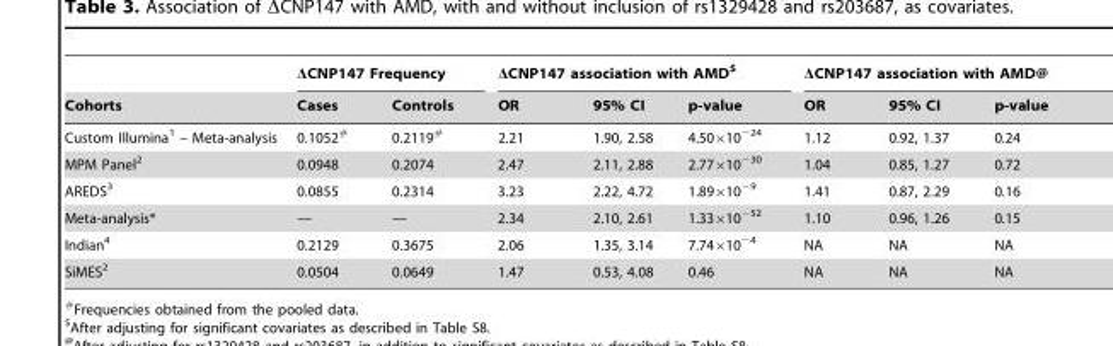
<table><thead><tr><td rowspan="2">Cohorts</td><td colspan="2">ΔCNP147 Frequency</td><td colspan="3">ΔCNP147 association with AMD$</td><td colspan="3">ΔCNP147 association with AMD@</td></tr><tr><td>Cases</td><td>Controls</td><td>OR</td><td>95% CI</td><td>p-value</td><td>OR</td><td>95% CI</td><td>p-value</td></tr></thead><tbody><tr><td>Custom Illumina<sup>1</sup> – Meta-analysis</td><td>0.1052#</td><td>0.2119#</td><td>2.21</td><td>1.90, 2.58</td><td>4.50×10<sup>−24</sup></td><td>1.12</td><td>0.92, 1.37</td><td>0.24</td></tr><tr><td>MPM Panel<sup>2</sup></td><td>0.0948</td><td>0.2074</td><td>2.47</td><td>2.11, 2.88</td><td>2.77×10<sup>−30</sup></td><td>1.04</td><td>0.85, 1.27</td><td>0.72</td></tr><tr><td>AREDS<sup>3</sup></td><td>0.0855</td><td>0.2314</td><td>3.23</td><td>2.22, 4.72</td><td>1.89×10<sup>−9</sup></td><td>1.41</td><td>0.87, 2.29</td><td>0.16</td></tr><tr><td>Meta-analysis*</td><td>—</td><td>—</td><td>2.34</td><td>2.10, 2.61</td><td>1.33×10<sup>−52</sup></td><td>1.10</td><td>0.96, 1.26</td><td>0.15</td></tr><tr><td>Indian<sup>4</sup></td><td>0.2129</td><td>0.3675</td><td>2.06</td><td>1.35, 3.14</td><td>7.74×10<sup>−4</sup></td><td>NA</td><td>NA</td><td>NA</td></tr><tr><td>SiMES<sup>2</sup></td><td>0.0504</td><td>0.0649</td><td>1.47</td><td>0.53, 4.08</td><td>0.46</td><td>NA</td><td>NA</td><td>NA</td></tr></tbody></table>